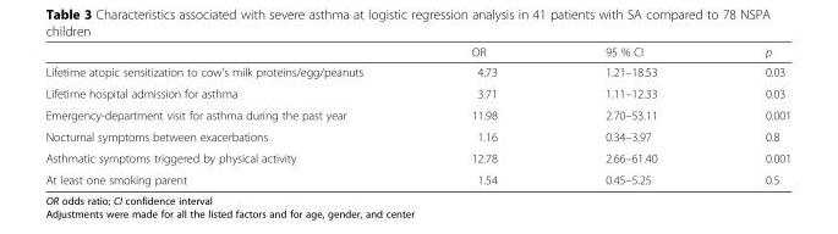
<table><thead><tr><td></td><td>OR</td><td>95 % CI</td><td>p</td></tr></thead><tbody><tr><td>Lifetime atopic sensitization to cow’s milk proteins/egg/peanuts</td><td>4.73</td><td>1.21–18.53</td><td>0.03</td></tr><tr><td>Lifetime hospital admission for asthma</td><td>3.71</td><td>1.11–12.33</td><td>0.03</td></tr><tr><td>Emergency-department visit for asthma during the past year</td><td>11.98</td><td>2.70–53.11</td><td>0.001</td></tr><tr><td>Nocturnal symptoms between exacerbations</td><td>1.16</td><td>0.34–3.97</td><td>0.8</td></tr><tr><td>Asthmatic symptoms triggered by physical activity</td><td>12.78</td><td>2.66–61.40</td><td>0.001</td></tr><tr><td>At least one smoking parent</td><td>1.54</td><td>0.45–5.25</td><td>0.5</td></tr></tbody></table>